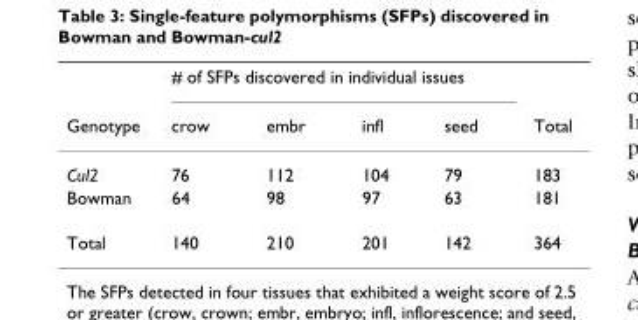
<table><thead><tr><td rowspan="2">Genotype</td><td colspan="4"># of SFPs discovered in individual issues</td><td rowspan="2">Total</td></tr><tr><td>crow</td><td>embr</td><td>infl</td><td>seed</td></tr></thead><tbody><tr><td>Cul2</td><td>76</td><td>112</td><td>104</td><td>79</td><td>183</td></tr><tr><td>Bowman</td><td>64</td><td>98</td><td>97</td><td>63</td><td>181</td></tr><tr><td>Total</td><td>140</td><td>210</td><td>201</td><td>142</td><td>364</td></tr></tbody></table>